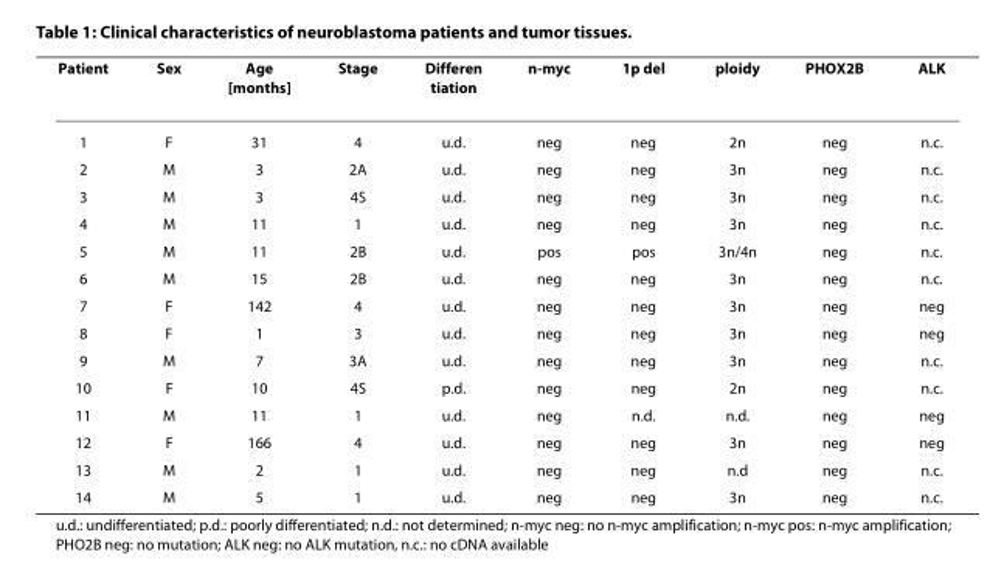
<table><thead><tr><td>Patient</td><td>Sex</td><td>Age [months]</td><td>Stage</td><td>Differen tiation</td><td>n-myc</td><td>1p del</td><td>ploidy</td><td>PHOX2B</td><td>ALK</td></tr></thead><tbody><tr><td>1</td><td>F</td><td>31</td><td>4</td><td>u.d.</td><td>neg</td><td>neg</td><td>2n</td><td>neg</td><td>n.c.</td></tr><tr><td>2</td><td>M</td><td>3</td><td>2A</td><td>u.d.</td><td>neg</td><td>neg</td><td>3n</td><td>neg</td><td>n.c.</td></tr><tr><td>3</td><td>M</td><td>3</td><td>4S</td><td>u.d.</td><td>neg</td><td>neg</td><td>3n</td><td>neg</td><td>n.c.</td></tr><tr><td>4</td><td>M</td><td>11</td><td>1</td><td>u.d.</td><td>neg</td><td>neg</td><td>3n</td><td>neg</td><td>n.c.</td></tr><tr><td>5</td><td>M</td><td>11</td><td>2B</td><td>u.d.</td><td>pos</td><td>pos</td><td>3n/4n</td><td>neg</td><td>n.c.</td></tr><tr><td>6</td><td>M</td><td>15</td><td>2B</td><td>u.d.</td><td>neg</td><td>neg</td><td>3n</td><td>neg</td><td>n.c.</td></tr><tr><td>7</td><td>F</td><td>142</td><td>4</td><td>u.d.</td><td>neg</td><td>neg</td><td>3n</td><td>neg</td><td>neg</td></tr><tr><td>8</td><td>F</td><td>1</td><td>3</td><td>u.d.</td><td>neg</td><td>neg</td><td>3n</td><td>neg</td><td>neg</td></tr><tr><td>9</td><td>M</td><td>7</td><td>3A</td><td>u.d.</td><td>neg</td><td>neg</td><td>3n</td><td>neg</td><td>n.c.</td></tr><tr><td>10</td><td>F</td><td>10</td><td>4S</td><td>p.d.</td><td>neg</td><td>neg</td><td>2n</td><td>neg</td><td>n.c.</td></tr><tr><td>11</td><td>M</td><td>11</td><td>1</td><td>u.d.</td><td>neg</td><td>n.d.</td><td>n.d.</td><td>neg</td><td>neg</td></tr><tr><td>12</td><td>F</td><td>166</td><td>4</td><td>u.d.</td><td>neg</td><td>neg</td><td>3n</td><td>neg</td><td>neg</td></tr><tr><td>13</td><td>M</td><td>2</td><td>1</td><td>u.d.</td><td>neg</td><td>neg</td><td>n.d</td><td>neg</td><td>n.c.</td></tr><tr><td>14</td><td>M</td><td>5</td><td>1</td><td>u.d.</td><td>neg</td><td>neg</td><td>3n</td><td>neg</td><td>n.c.</td></tr></tbody></table>